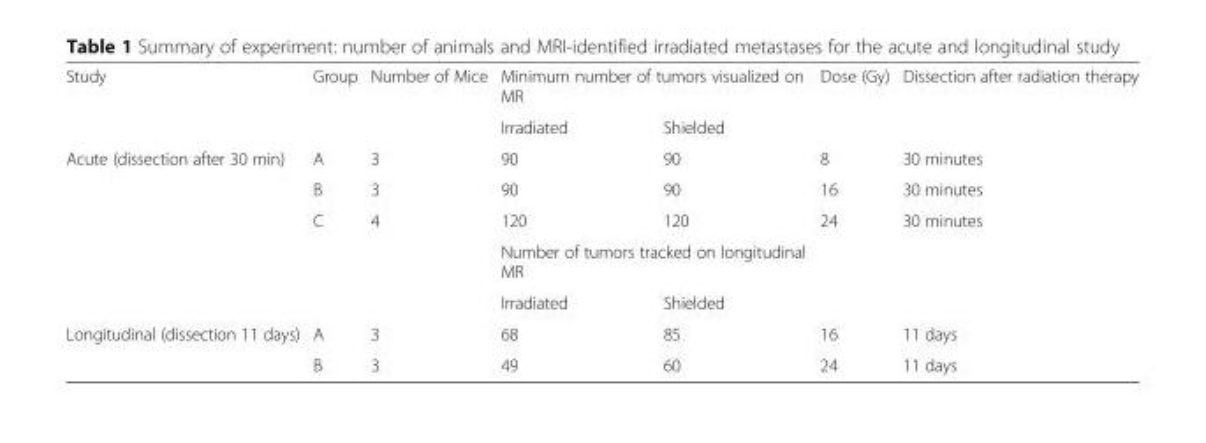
<table><tbody><tr><td rowspan="2">Study</td><td rowspan="2">Group</td><td rowspan="2">Number of Mice</td><td colspan="2">Minimum number of tumors visualized on MR</td><td rowspan="2">Dose (Gy)</td><td rowspan="2">Dissection after radiation therapy</td></tr><tr><td>Irradiated</td><td>Shielded</td></tr><tr><td rowspan="5">Acute (dissection after 30 min)</td><td>A</td><td>3</td><td>90</td><td>90</td><td>8</td><td>30 minutes</td></tr><tr><td>B</td><td>3</td><td>90</td><td>90</td><td>16</td><td>30 minutes</td></tr><tr><td>C</td><td>4</td><td>120</td><td>120</td><td>24</td><td>30 minutes</td></tr><tr><td rowspan="2"></td><td rowspan="2"></td><td colspan="2">Number of tumors tracked on longitudinal MR</td><td rowspan="2"></td><td rowspan="2"></td></tr><tr><td>Irradiated</td><td>Shielded</td></tr><tr><td rowspan="2">Longitudinal (dissection 11 days)</td><td>A</td><td>3</td><td>68</td><td>85</td><td>16</td><td>11 days</td></tr><tr><td>B</td><td>3</td><td>49</td><td>60</td><td>24</td><td>11 days</td></tr></tbody></table>